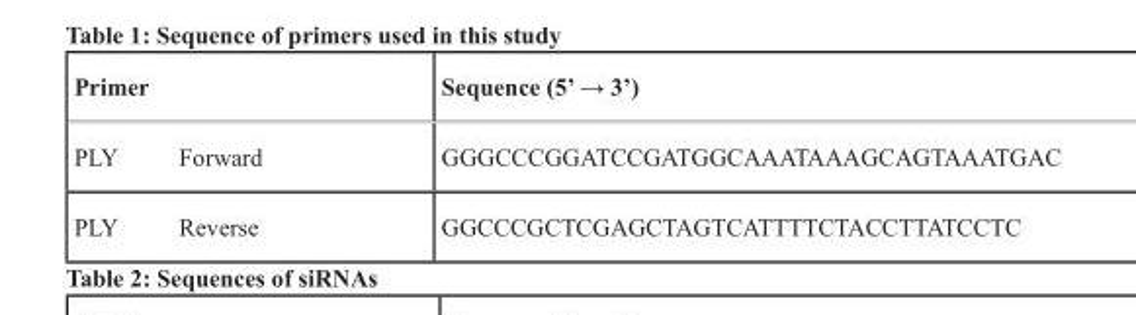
<table><thead><tr><td>Primer</td><td>Sequence (5’ → 3’)</td></tr></thead><tbody><tr><td>PLY Forward</td><td>GGGCCCGGATCCGATGGCAAATAAAGCAGTAAATGAC</td></tr><tr><td>PLY Reverse</td><td>GGCCCGCTCGAGCTAGTCATTTTCTACCTTATCCTC</td></tr></tbody></table>